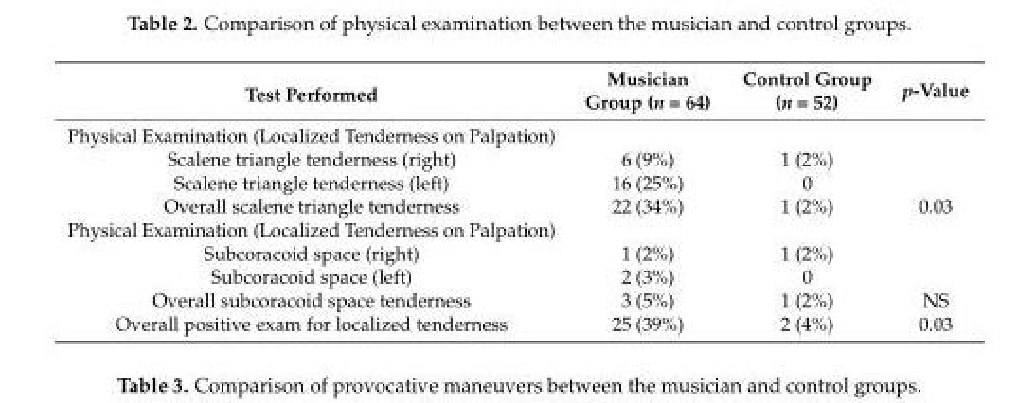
<table><thead><tr><td>Test Performed</td><td>Musician Group (n = 64)</td><td>Control Group (n = 52)</td><td>p-Value</td></tr></thead><tbody><tr><td colspan="4">Physical Examination (Localized Tenderness on Palpation)</td></tr><tr><td>Scalene triangle tenderness (right)</td><td>6 (9%)</td><td>1 (2%)</td><td></td></tr><tr><td>Scalene triangle tenderness (left)</td><td>16 (25%)</td><td>0</td><td></td></tr><tr><td>Overall scalene triangle tenderness</td><td>22 (34%)</td><td>1 (2%)</td><td>0.03</td></tr><tr><td colspan="4">Physical Examination (Localized Tenderness on Palpation)</td></tr><tr><td>Subcoracoid space (right)</td><td>1 (2%)</td><td>1 (2%)</td><td></td></tr><tr><td>Subcoracoid space (left)</td><td>2 (3%)</td><td>0</td><td></td></tr><tr><td>Overall subcoracoid space tenderness</td><td>3 (5%)</td><td>1 (2%)</td><td>NS</td></tr><tr><td>Overall positive exam for localized tenderness</td><td>25 (39%)</td><td>2 (4%)</td><td>0.03</td></tr></tbody></table>